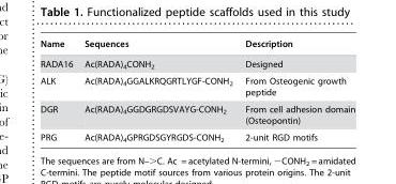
<table><thead><tr><td>Name</td><td>Sequences</td><td>Description</td></tr></thead><tbody><tr><td>RADA16</td><td>Ac(RADA)<sub>4</sub>CONH<sub>2</sub></td><td>Designed</td></tr><tr><td>ALK</td><td>Ac(RADA)<sub>4</sub>GGALKRQGRTLYGF-CONH<sub>2</sub></td><td>From Osteogenic growth peptide</td></tr><tr><td>DGR</td><td>Ac(RADA)<sub>4</sub>GGDGRGDSVAYG-CONH<sub>2</sub></td><td>From cell adhesion domain (Osteopontin)</td></tr><tr><td>PRG</td><td>Ac(RADA)<sub>4</sub>GPRGDSGYRGDS-CONH<sub>2</sub></td><td>2-unit RGD motifs</td></tr></tbody></table>